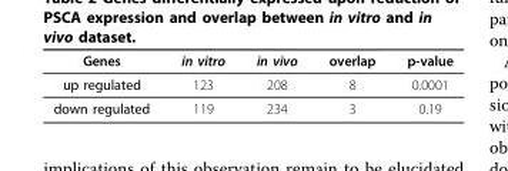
<table><thead><tr><td>Genes</td><td>in vitro</td><td>in vivo</td><td>overlap</td><td>p-value</td></tr></thead><tbody><tr><td>up regulated</td><td>123</td><td>208</td><td>8</td><td>0.0001</td></tr><tr><td>down regulated</td><td>119</td><td>234</td><td>3</td><td>0.19</td></tr></tbody></table>